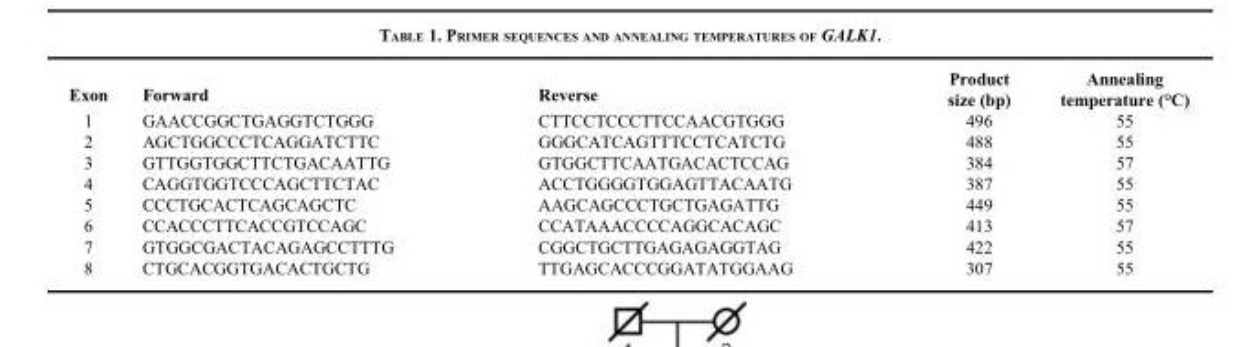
<table><thead><tr><td>Exon</td><td>Forward</td><td>Reverse</td><td>Product size (bp)</td><td>Annealing temperature (°C)</td></tr></thead><tbody><tr><td>1</td><td>GAACCGGCTGAGGTCTGGG</td><td>CTTCCTCCCTTCCAACGTGGG</td><td>496</td><td>55</td></tr><tr><td>2</td><td>AGCTGGCCCTCAGGATCTTC</td><td>GGGCATCAGTTTCCTCATCTG</td><td>488</td><td>55</td></tr><tr><td>3</td><td>GTTGGTGGCTTCTGACAATTG</td><td>GTGGCTTCAATGACACTCCAG</td><td>384</td><td>57</td></tr><tr><td>4</td><td>CAGGTGGTCCCAGCTTCTAC</td><td>ACCTGGGGTGGAGTTACAATG</td><td>387</td><td>55</td></tr><tr><td>5</td><td>CCCTGCACTCAGCAGCTC</td><td>AAGCAGCCCTGCTGAGATTG</td><td>449</td><td>55</td></tr><tr><td>6</td><td>CCACCCTTCACCGTCCAGC</td><td>CCATAAACCCCAGGCACAGC</td><td>413</td><td>57</td></tr><tr><td>7</td><td>GTGGCGACTACAGAGCCTTTG</td><td>CGGCTGCTTGAGAGAGGTAG</td><td>422</td><td>55</td></tr><tr><td>8</td><td>CTGCACGGTGACACTGCTG</td><td>TTGAGCACCCGGATATGGAAG</td><td>307</td><td>55</td></tr></tbody></table>